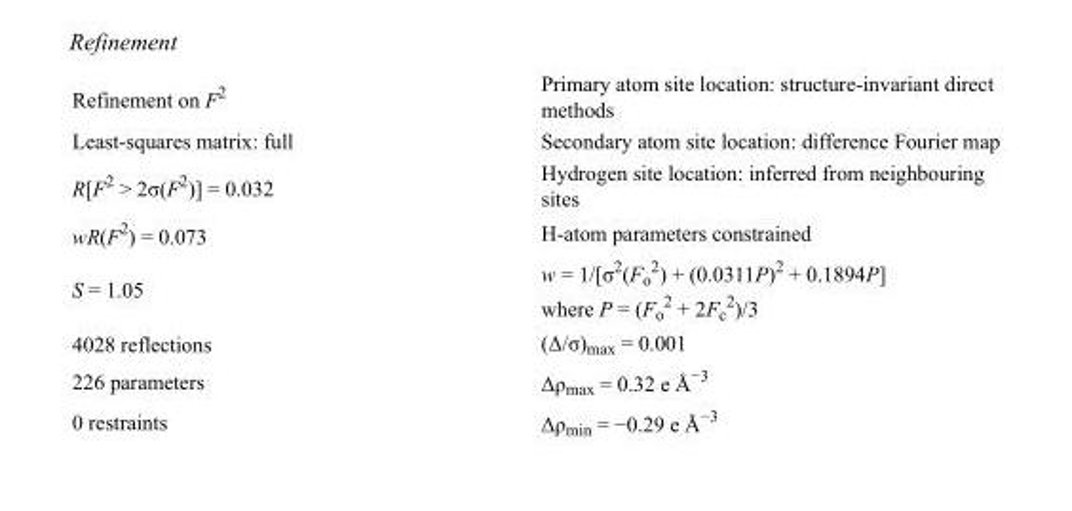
<table><tbody><tr><td>Refinement on F<sup>2</sup></td><td>Primary atom site location: structure-invariant direct methods</td></tr><tr><td>Least-squares matrix: full</td><td>Secondary atom site location: difference Fourier map</td></tr><tr><td>R[F<sup>2</sup> &gt; 2σ(F<sup>2</sup>)] = 0.032</td><td>Hydrogen site location: inferred from neighbouring sites</td></tr><tr><td>wR(F<sup>2</sup>) = 0.073</td><td>H-atom parameters constrained</td></tr><tr><td>S = 1.05</td><td>w = 1/[σ<sup>2</sup>(F<sub>o</sub> <sup>2</sup>) + (0.0311P)<sup>2</sup> + 0.1894P] where P = (F<sub>o</sub> <sup>2</sup> + 2F<sub>c</sub> <sup>2</sup>)/3</td></tr><tr><td>4028 reflections</td><td>(Δ/σ)<sub>max</sub> = 0.001</td></tr><tr><td>226 parameters</td><td>Δρ<sub>max</sub> = 0.32 e Å<sup>−3</sup></td></tr><tr><td>0 restraints</td><td>Δρ<sub>min</sub> = −0.29 e Å<sup>−3</sup></td></tr></tbody></table>